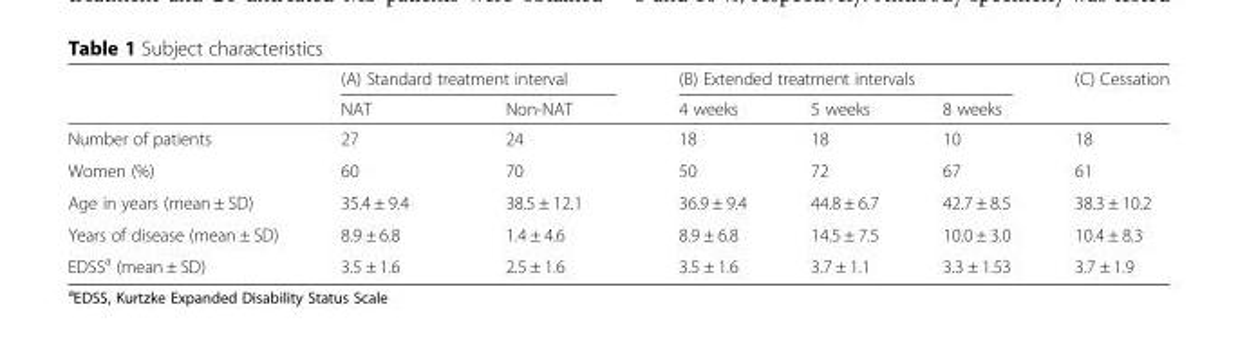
<table><thead><tr><td rowspan="2"></td><td colspan="2">(A) Standard treatment interval</td><td colspan="3">(B) Extended treatment intervals</td><td rowspan="2">(C) Cessation</td></tr><tr><td>NAT</td><td>Non-NAT</td><td>4 weeks</td><td>5 weeks</td><td>8 weeks</td></tr></thead><tbody><tr><td>Number of patients</td><td>27</td><td>24</td><td>18</td><td>18</td><td>10</td><td>18</td></tr><tr><td>Women (%)</td><td>60</td><td>70</td><td>50</td><td>72</td><td>67</td><td>61</td></tr><tr><td>Age in years (mean ± SD)</td><td>35.4 ± 9.4</td><td>38.5 ± 12.1</td><td>36.9 ± 9.4</td><td>44.8 ± 6.7</td><td>42.7 ± 8.5</td><td>38.3 ± 10.2</td></tr><tr><td>Years of disease (mean ± SD)</td><td>8.9 ± 6.8</td><td>1.4 ± 4.6</td><td>8.9 ± 6.8</td><td>14.5 ± 7.5</td><td>10.0 ± 3.0</td><td>10.4 ± 8.3</td></tr><tr><td>EDSS<sup>a</sup> (mean ± SD)</td><td>3.5 ± 1.6</td><td>2.5 ± 1.6</td><td>3.5 ± 1.6</td><td>3.7 ± 1.1</td><td>3.3 ± 1.53</td><td>3.7 ± 1.9</td></tr></tbody></table>